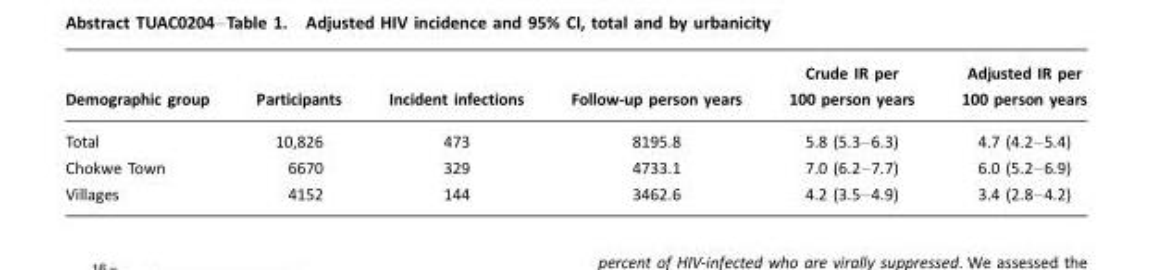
<table><thead><tr><td>Demographic group</td><td>Participants</td><td>Incident infections</td><td>Follow-up person years</td><td>Crude IR per 100 person years</td><td>Adjusted IR per 100 person years</td></tr></thead><tbody><tr><td>Total</td><td>10,826</td><td>473</td><td>8195.8</td><td>5.8 (5.3–6.3)</td><td>4.7 (4.2–5.4)</td></tr><tr><td>Chokwe Town</td><td>6670</td><td>329</td><td>4733.1</td><td>7.0 (6.2–7.7)</td><td>6.0 (5.2–6.9)</td></tr><tr><td>Villages</td><td>4152</td><td>144</td><td>3462.6</td><td>4.2 (3.5–4.9)</td><td>3.4 (2.8–4.2)</td></tr></tbody></table>